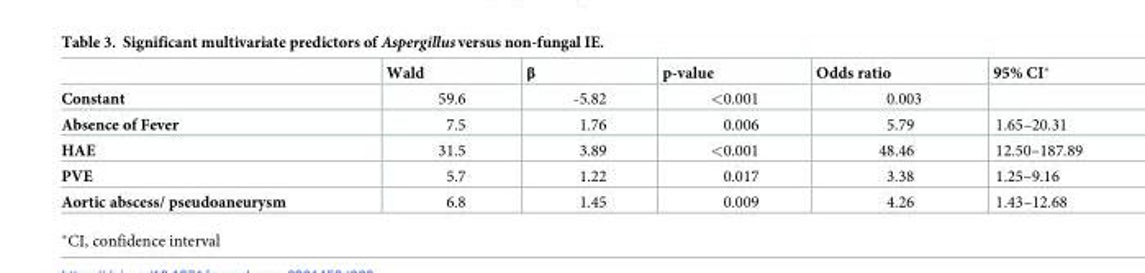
<table><thead><tr><td></td><td>Wald</td><td>β</td><td>p-value</td><td>Odds ratio</td><td>95% CI*</td></tr></thead><tbody><tr><td>Constant</td><td>59.6</td><td>-5.82</td><td>&lt;0.001</td><td>0.003</td><td></td></tr><tr><td>Absence of Fever</td><td>7.5</td><td>1.76</td><td>0.006</td><td>5.79</td><td>1.65–20.31</td></tr><tr><td>HAE</td><td>31.5</td><td>3.89</td><td>&lt;0.001</td><td>48.46</td><td>12.50–187.89</td></tr><tr><td>PVE</td><td>5.7</td><td>1.22</td><td>0.017</td><td>3.38</td><td>1.25–9.16</td></tr><tr><td>Aortic abscess/ pseudoaneurysm</td><td>6.8</td><td>1.45</td><td>0.009</td><td>4.26</td><td>1.43–12.68</td></tr></tbody></table>